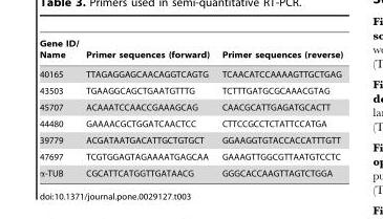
<table><thead><tr><td>Gene ID/ Name</td><td>Primer sequences (forward)</td><td>Primer sequences (reverse)</td></tr></thead><tbody><tr><td>40165</td><td>TTAGAGGAGCAACAGGTCAGTG</td><td>TCAACATCCAAAAGTTGCTGAG</td></tr><tr><td>43503</td><td>TGAAGGCAGCTGAATGTTTG</td><td>TCTTTGATGCGCAAACGTAG</td></tr><tr><td>45707</td><td>ACAAATCCAACCGAAAGCAG</td><td>CAACGCATTGAGATGCACTT</td></tr><tr><td>44480</td><td>GAAAACGCTGGATCAACTCC</td><td>CTTCCGCCTCTATTCCATGA</td></tr><tr><td>39779</td><td>ACGATAATGACATTGCTGTGCT</td><td>GGAAGGTGTACCACCATTTGTT</td></tr><tr><td>47697</td><td>TCGTGGAGTAGAAAATGAGCAA</td><td>GAAAGTTGGCGTTAATGTCCTC</td></tr><tr><td>α-TUB</td><td>CGCATTCATGGTTGATAACG</td><td>GGGCACCAAGTTAGTCTGGA</td></tr></tbody></table>